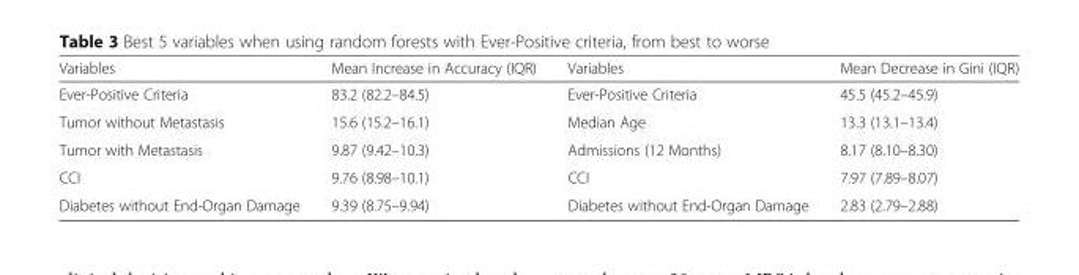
<table><thead><tr><td>Variables</td><td>Mean Increase in Accuracy (IQR)</td><td>Variables</td><td>Mean Decrease in Gini (IQR)</td></tr></thead><tbody><tr><td>Ever-Positive Criteria</td><td>83.2 (82.2–84.5)</td><td>Ever-Positive Criteria</td><td>45.5 (45.2–45.9)</td></tr><tr><td>Tumor without Metastasis</td><td>15.6 (15.2–16.1)</td><td>Median Age</td><td>13.3 (13.1–13.4)</td></tr><tr><td>Tumor with Metastasis</td><td>9.87 (9.42–10.3)</td><td>Admissions (12 Months)</td><td>8.17 (8.10–8.30)</td></tr><tr><td>CCI</td><td>9.76 (8.98–10.1)</td><td>CCI</td><td>7.97 (7.89–8.07)</td></tr><tr><td>Diabetes without End-Organ Damage</td><td>9.39 (8.75–9.94)</td><td>Diabetes without End-Organ Damage</td><td>2.83 (2.79–2.88)</td></tr></tbody></table>